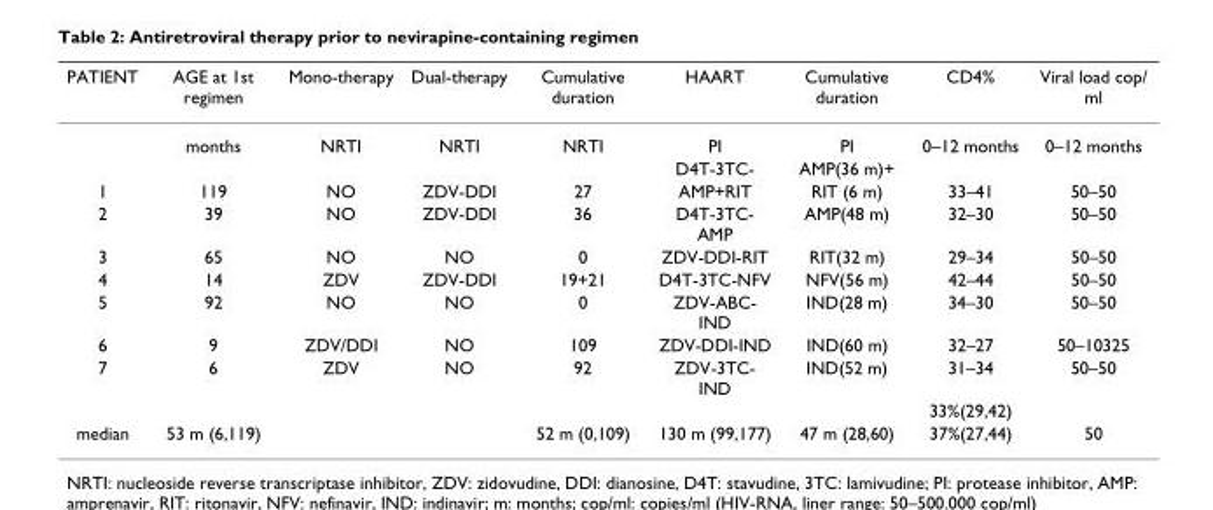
<table><thead><tr><td>PATIENT</td><td>AGE at 1st regimen</td><td>Mono-therapy</td><td>Dual-therapy</td><td>Cumulative duration</td><td>HAART</td><td>Cumulative duration</td><td>CD4%</td><td>Viral load cop/ ml</td></tr></thead><tbody><tr><td></td><td>months</td><td>NRTI</td><td>NRTI</td><td>NRTI</td><td>PI</td><td>PI</td><td>0–12 months</td><td>0–12 months</td></tr><tr><td></td><td></td><td></td><td></td><td></td><td>D4T-3TC-</td><td>AMP(36 m)+</td><td></td><td></td></tr><tr><td>1</td><td>119</td><td>NO</td><td>ZDV-DDI</td><td>27</td><td>AMP+RIT</td><td>RIT (6 m)</td><td>33–41</td><td>50–50</td></tr><tr><td>2</td><td>39</td><td>NO</td><td>ZDV-DDI</td><td>36</td><td>D4T-3TC- AMP</td><td>AMP(48 m)</td><td>32–30</td><td>50–50</td></tr><tr><td>3</td><td>65</td><td>NO</td><td>NO</td><td>0</td><td>ZDV-DDI-RIT</td><td>RIT(32 m)</td><td>29–34</td><td>50–50</td></tr><tr><td>4</td><td>14</td><td>ZDV</td><td>ZDV-DDI</td><td>19+21</td><td>D4T-3TC-NFV</td><td>NFV(56 m)</td><td>42–44</td><td>50–50</td></tr><tr><td>5</td><td>92</td><td>NO</td><td>NO</td><td>0</td><td>ZDV-ABC- IND</td><td>IND(28 m)</td><td>34–30</td><td>50–50</td></tr><tr><td>6</td><td>9</td><td>ZDV/DDI</td><td>NO</td><td>109</td><td>ZDV-DDI-IND</td><td>IND(60 m)</td><td>32–27</td><td>50–10325</td></tr><tr><td rowspan="2">7</td><td>6</td><td>ZDV</td><td>NO</td><td>92</td><td>ZDV-3TC- IND</td><td>IND(52 m)</td><td>31–34</td><td>50–50</td></tr><tr><td></td><td></td><td></td><td></td><td></td><td></td><td>33%(29,42)</td><td></td></tr><tr><td>median</td><td>53 m (6,119)</td><td></td><td></td><td>52 m (0,109)</td><td>130 m (99,177)</td><td>47 m (28,60)</td><td>37%(27,44)</td><td>50</td></tr></tbody></table>